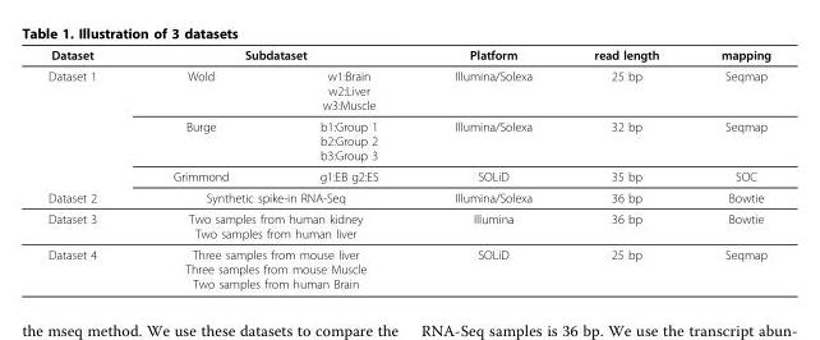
<table><thead><tr><td rowspan="2">Dataset Dataset 1</td><td colspan="2">Subdataset</td><td rowspan="2">Platform Illumina/Solexa</td><td rowspan="2">read length 25 bp</td><td rowspan="2">mapping Seqmap</td></tr><tr><td>Wold</td><td>w1:Brain w2:Liver w3:Muscle</td></tr></thead><tbody><tr><td></td><td>Burge</td><td>b1:Group 1 b2:Group 2 b3:Group 3</td><td>Illumina/Solexa</td><td>32 bp</td><td>Seqmap</td></tr><tr><td></td><td>Grimmond</td><td>g1:EB g2:ES</td><td>SOLiD</td><td>35 bp</td><td>SOC</td></tr><tr><td>Dataset 2</td><td colspan="2">Synthetic spike-in RNA-Seq</td><td>Illumina/Solexa</td><td>36 bp</td><td>Bowtie</td></tr><tr><td>Dataset 3</td><td colspan="2">Two samples from human kidney Two samples from human liver</td><td>Illumina</td><td>36 bp</td><td>Bowtie</td></tr><tr><td>Dataset 4</td><td colspan="2">Three samples from mouse liver Three samples from mouse Muscle Two samples from human Brain</td><td>SOLiD</td><td>25 bp</td><td>Seqmap</td></tr></tbody></table>